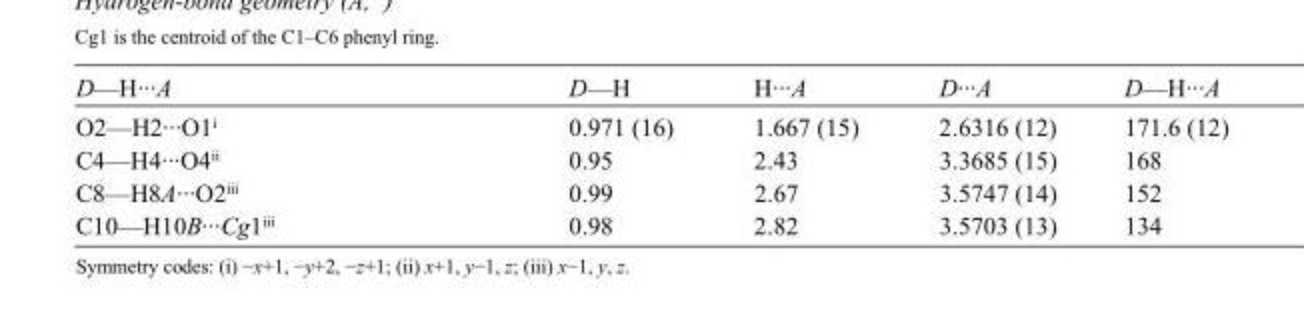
<table><tbody><tr><td>D—H···A</td><td>D—H</td><td>H···A</td><td>D···A</td><td>D—H···A</td></tr><tr><td>O2—H2···O1<sup>i</sup></td><td>0.971 (16)</td><td>1.667 (15)</td><td>2.6316 (12)</td><td>171.6 (12)</td></tr><tr><td>C4—H4···O4<sup>ii</sup></td><td>0.95</td><td>2.43</td><td>3.3685 (15)</td><td>168</td></tr><tr><td>C8—H8A···O2<sup>iii</sup></td><td>0.99</td><td>2.67</td><td>3.5747 (14)</td><td>152</td></tr><tr><td>C10—H10B···Cg1<sup>iii</sup></td><td>0.98</td><td>2.82</td><td>3.5703 (13)</td><td>134</td></tr></tbody></table>